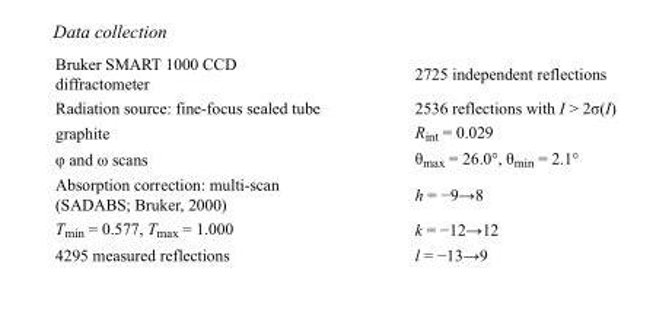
<table><tbody><tr><td>Bruker SMART 1000 CCD diffractometer</td><td>2725 independent reflections</td></tr><tr><td>Radiation source: fine-focus sealed tube</td><td>2536 reflections with I &gt; 2σ(I)</td></tr><tr><td>graphite</td><td>R<sub>int</sub> = 0.029</td></tr><tr><td>φ and ω scans</td><td>θ<sub>max</sub> = 26.0°, θ<sub>min</sub> = 2.1°</td></tr><tr><td>Absorption correction: multi-scan (SADABS; Bruker, 2000)</td><td>h = −9→8</td></tr><tr><td>T<sub>min</sub> = 0.577, T<sub>max</sub> = 1.000</td><td>k = −12→12</td></tr><tr><td>4295 measured reflections</td><td>l = −13→9</td></tr></tbody></table>